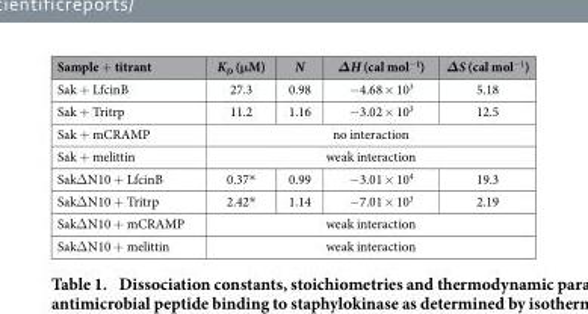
<table><thead><tr><td>Sample + titrant</td><td>K<sub>D</sub> (μ M)</td><td>N</td><td>ΔH (cal mol<sup>−1</sup>)</td><td>ΔS (cal mol<sup>−1</sup>)</td></tr></thead><tbody><tr><td>Sak + LfcinB</td><td>27.3</td><td>0.98</td><td>− 4.68 × 10<sup>3</sup></td><td>5.18</td></tr><tr><td>Sak + Tritrp</td><td>11.2</td><td>1.16</td><td>− 3.02 × 10<sup>3</sup></td><td>12.5</td></tr><tr><td>Sak + mCRAMP</td><td colspan="4">no interaction</td></tr><tr><td>Sak + melittin</td><td colspan="4">weak interaction</td></tr><tr><td>SakΔ N10 + LfcinB</td><td>0.37*</td><td>0.99</td><td>− 3.01 × 10<sup>4</sup></td><td>19.3</td></tr><tr><td>SakΔ N10 + Tritrp</td><td>2.42*</td><td>1.14</td><td>− 7.01 × 10<sup>3</sup></td><td>2.19</td></tr><tr><td>SakΔ N10 + mCRAMP</td><td colspan="4">weak interaction</td></tr><tr><td>SakΔ N10 + melittin</td><td colspan="4">weak interaction</td></tr></tbody></table>